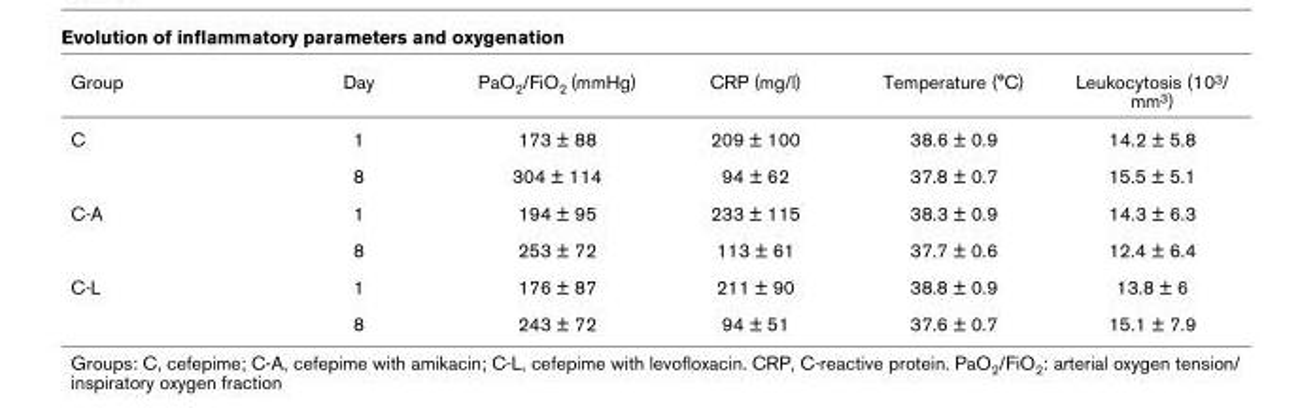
<table><thead><tr><td>Group</td><td>Day</td><td>PaO2/FiO2 (mmHg)</td><td>CRP (mg/l)</td><td>Temperature (°C)</td><td>Leukocytosis (103/ mm3)</td></tr></thead><tbody><tr><td rowspan="2">C</td><td>1</td><td>173 ± 88</td><td>209 ± 100</td><td>38.6 ± 0.9</td><td>14.2 ± 5.8</td></tr><tr><td>8</td><td>304 ± 114</td><td>94 ± 62</td><td>37.8 ± 0.7</td><td>15.5 ± 5.1</td></tr><tr><td rowspan="2">C-A</td><td>1</td><td>194 ± 95</td><td>233 ± 115</td><td>38.3 ± 0.9</td><td>14.3 ± 6.3</td></tr><tr><td>8</td><td>253 ± 72</td><td>113 ± 61</td><td>37.7 ± 0.6</td><td>12.4 ± 6.4</td></tr><tr><td rowspan="2">C-L</td><td>1</td><td>176 ± 87</td><td>211 ± 90</td><td>38.8 ± 0.9</td><td>13.8 ± 6</td></tr><tr><td>8</td><td>243 ± 72</td><td>94 ± 51</td><td>37.6 ± 0.7</td><td>15.1 ± 7.9</td></tr></tbody></table>